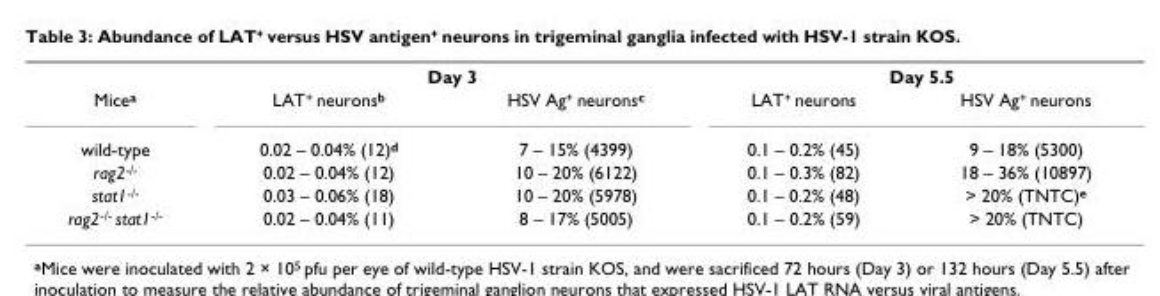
<table><thead><tr><td rowspan="2">Mice<sup>a</sup></td><td colspan="2">Day 3</td><td colspan="2">Day 5.5</td></tr><tr><td>LAT<sup>+</sup> neurons<sup>b</sup></td><td>HSV Ag<sup>+</sup> neurons<sup>c</sup></td><td>LAT<sup>+</sup> neurons</td><td>HSV Ag<sup>+</sup> neurons</td></tr></thead><tbody><tr><td>wild-type</td><td>0.02 – 0.04% (12)<sup>d</sup></td><td>7 – 15% (4399)</td><td>0.1 – 0.2% (45)</td><td>9 – 18% (5300)</td></tr><tr><td>rag2<sup>-/-</sup></td><td>0.02 – 0.04% (12)</td><td>10 – 20% (6122)</td><td>0.1 – 0.3% (82)</td><td>18 – 36% (10897)</td></tr><tr><td>stat1<sup>-/-</sup></td><td>0.03 – 0.06% (18)</td><td>10 – 20% (5978)</td><td>0.1 – 0.2% (48)</td><td>&gt; 20% (TNTC)<sup>e</sup></td></tr><tr><td>rag2<sup>-/-</sup> stat1<sup>-/-</sup></td><td>0.02 – 0.04% (11)</td><td>8 – 17% (5005)</td><td>0.1 – 0.2% (59)</td><td>&gt; 20% (TNTC)</td></tr></tbody></table>